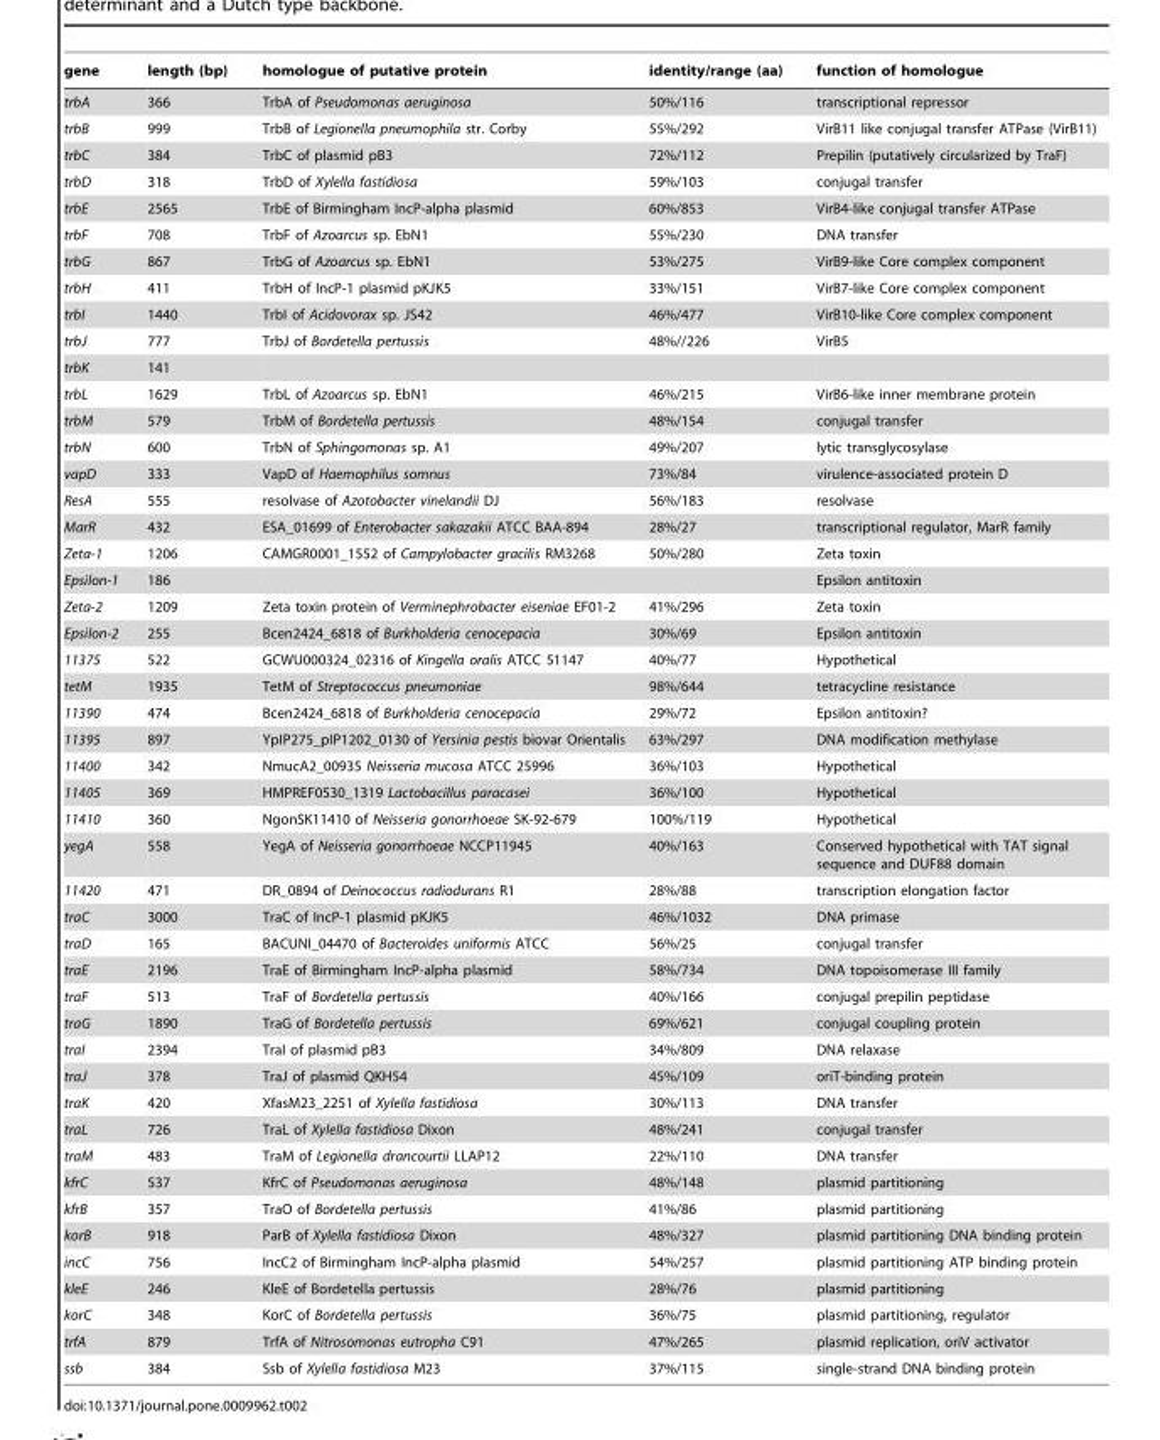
<table><thead><tr><td>gene</td><td>length (bp)</td><td>homologue of putative protein</td><td>identity/range (aa)</td><td>function of homologue</td></tr></thead><tbody><tr><td>trbA</td><td>366</td><td>TrbA of Pseudomonas aeruginosa</td><td>50%/116</td><td>transcriptional repressor</td></tr><tr><td>trbB</td><td>999</td><td>TrbB of Legionella pneumophila str. Corby</td><td>55%/292</td><td>VirB11 like conjugal transfer ATPase (VirB11)</td></tr><tr><td>trbC</td><td>384</td><td>TrbC of plasmid pB3</td><td>72%/112</td><td>Prepilin (putatively circularized by TraF)</td></tr><tr><td>trbD</td><td>318</td><td>TrbD of Xylella fastidiosa</td><td>59%/103</td><td>conjugal transfer</td></tr><tr><td>trbE</td><td>2565</td><td>TrbE of Birmingham IncP-alpha plasmid</td><td>60%/853</td><td>VirB4-like conjugal transfer ATPase</td></tr><tr><td>trbF</td><td>708</td><td>TrbF of Azoarcus sp. EbN1</td><td>55%/230</td><td>DNA transfer</td></tr><tr><td>trbG</td><td>867</td><td>TrbG of Azoarcus sp. EbN1</td><td>53%/275</td><td>VirB9-like Core complex component</td></tr><tr><td>trbH</td><td>411</td><td>TrbH of IncP-1 plasmid pKJK5</td><td>33%/151</td><td>VirB7-like Core complex component</td></tr><tr><td>trbI</td><td>1440</td><td>TrbI of Acidovorax sp. JS42</td><td>46%/477</td><td>VirB10-like Core complex component</td></tr><tr><td>trbJ</td><td>777</td><td>TrbJ of Bordetella pertussis</td><td>48%//226</td><td>VirB5</td></tr><tr><td>trbK</td><td>141</td><td></td><td></td><td></td></tr><tr><td>trbL</td><td>1629</td><td>TrbL of Azoarcus sp. EbN1</td><td>46%/215</td><td>VirB6-like inner membrane protein</td></tr><tr><td>trbM</td><td>579</td><td>TrbM of Bordetella pertussis</td><td>48%/154</td><td>conjugal transfer</td></tr><tr><td>trbN</td><td>600</td><td>TrbN of Sphingomonas sp. A1</td><td>49%/207</td><td>lytic transglycosylase</td></tr><tr><td>vapD</td><td>333</td><td>VapD of Haemophilus somnus</td><td>73%/84</td><td>virulence-associated protein D</td></tr><tr><td>ResA</td><td>555</td><td>resolvase of Azotobacter vinelandii DJ</td><td>56%/183</td><td>resolvase</td></tr><tr><td>MarR</td><td>432</td><td>ESA_01699 of Enterobacter sakazakii ATCC BAA-894</td><td>28%/27</td><td>transcriptional regulator, MarR family</td></tr><tr><td>Zeta-1</td><td>1206</td><td>CAMGR0001_1552 of Campylobacter gracilis RM3268</td><td>50%/280</td><td>Zeta toxin</td></tr><tr><td>Epsilon-1</td><td>186</td><td></td><td></td><td>Epsilon antitoxin</td></tr><tr><td>Zeta-2</td><td>1209</td><td>Zeta toxin protein of Verminephrobacter eiseniae EF01-2</td><td>41%/296</td><td>Zeta toxin</td></tr><tr><td>Epsilon-2</td><td>255</td><td>Bcen2424_6818 of Burkholderia cenocepacia</td><td>30%/69</td><td>Epsilon antitoxin</td></tr><tr><td>11375</td><td>522</td><td>GCWU000324_02316 of Kingella oralis ATCC 51147</td><td>40%/77</td><td>Hypothetical</td></tr><tr><td>tetM</td><td>1935</td><td>TetM of Streptococcus pneumoniae</td><td>98%/644</td><td>tetracycline resistance</td></tr><tr><td>11390</td><td>474</td><td>Bcen2424_6818 of Burkholderia cenocepacia</td><td>29%/72</td><td>Epsilon antitoxin?</td></tr><tr><td>11395</td><td>897</td><td>YpIP275_pIP1202_0130 of Yersinia pestis biovar Orientalis</td><td>63%/297</td><td>DNA modification methylase</td></tr><tr><td>11400</td><td>342</td><td>NmucA2_00935 Neisseria mucosa ATCC 25996</td><td>36%/103</td><td>Hypothetical</td></tr><tr><td>11405</td><td>369</td><td>HMPREF0530_1319 Lactobacillus paracasei</td><td>36%/100</td><td>Hypothetical</td></tr><tr><td>11410</td><td>360</td><td>NgonSK11410 of Neisseria gonorrhoeae SK-92-679</td><td>100%/119</td><td>Hypothetical</td></tr><tr><td>yegA</td><td>558</td><td>YegA of Neisseria gonorrhoeae NCCP11945</td><td>40%/163</td><td>Conserved hypothetical with TAT signal sequence and DUF88 domain</td></tr><tr><td>11420</td><td>471</td><td>DR_0894 of Deinococcus radiodurans R1</td><td>28%/88</td><td>transcription elongation factor</td></tr><tr><td>traC</td><td>3000</td><td>TraC of IncP-1 plasmid pKJK5</td><td>46%/1032</td><td>DNA primase</td></tr><tr><td>traD</td><td>165</td><td>BACUNI_04470 of Bacteroides uniformis ATCC</td><td>56%/25</td><td>conjugal transfer</td></tr><tr><td>traE</td><td>2196</td><td>TraE of Birmingham IncP-alpha plasmid</td><td>58%/734</td><td>DNA topoisomerase III family</td></tr><tr><td>traF</td><td>513</td><td>TraF of Bordetella pertussis</td><td>40%/166</td><td>conjugal prepilin peptidase</td></tr><tr><td>traG</td><td>1890</td><td>TraG of Bordetella pertussis</td><td>69%/621</td><td>conjugal coupling protein</td></tr><tr><td>traI</td><td>2394</td><td>TraI of plasmid pB3</td><td>34%/809</td><td>DNA relaxase</td></tr><tr><td>traJ</td><td>378</td><td>TraJ of plasmid QKH54</td><td>45%/109</td><td>oriT-binding protein</td></tr><tr><td>traK</td><td>420</td><td>XfasM23_2251 of Xylella fastidiosa</td><td>30%/113</td><td>DNA transfer</td></tr><tr><td>traL</td><td>726</td><td>TraL of Xylella fastidiosa Dixon</td><td>48%/241</td><td>conjugal transfer</td></tr><tr><td>traM</td><td>483</td><td>TraM of Legionella drancourtii LLAP12</td><td>22%/110</td><td>DNA transfer</td></tr><tr><td>kfrC</td><td>537</td><td>KfrC of Pseudomonas aeruginosa</td><td>48%/148</td><td>plasmid partitioning</td></tr><tr><td>kfrB</td><td>357</td><td>TraO of Bordetella pertussis</td><td>41%/86</td><td>plasmid partitioning</td></tr><tr><td>korB</td><td>918</td><td>ParB of Xylella fastidiosa Dixon</td><td>48%/327</td><td>plasmid partitioning DNA binding protein</td></tr><tr><td>incC</td><td>756</td><td>IncC2 of Birmingham IncP-alpha plasmid</td><td>54%/257</td><td>plasmid partitioning ATP binding protein</td></tr><tr><td>kleE</td><td>246</td><td>KleE of Bordetella pertussis</td><td>28%/76</td><td>plasmid partitioning</td></tr><tr><td>korC</td><td>348</td><td>KorC of Bordetella pertussis</td><td>36%/75</td><td>plasmid partitioning, regulator</td></tr><tr><td>trfA</td><td>879</td><td>TrfA of Nitrosomonas eutropha C91</td><td>47%/265</td><td>plasmid replication, oriV activator</td></tr><tr><td>ssb</td><td>384</td><td>Ssb of Xylella fastidiosa M23</td><td>37%/115</td><td>single-strand DNA binding protein</td></tr></tbody></table>